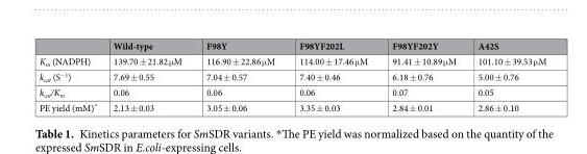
<table><thead><tr><td></td><td>Wild-type</td><td>F98Y</td><td>F98YF202L</td><td>F98YF202Y</td><td>A42S</td></tr></thead><tbody><tr><td>K<sub>m</sub> (NADPH)</td><td>139.70 ± 21.82 μM</td><td>116.90 ± 22.86 μM</td><td>114.00 ± 17.46 μM</td><td>91.41 ± 10.89 μM</td><td>101.10 ± 39.53 μM</td></tr><tr><td>k<sub>cat</sub> (S<sup>−1</sup>)</td><td>7.69 ± 0.55</td><td>7.04 ± 0.57</td><td>7.40 ± 0.46</td><td>6.18 ± 0.76</td><td>5.00 ± 0.76</td></tr><tr><td>k<sub>cat</sub>/K<sub>m</sub></td><td>0.06</td><td>0.06</td><td>0.06</td><td>0.07</td><td>0.05</td></tr><tr><td>PE yield (mM)*</td><td>2.13 ± 0.03</td><td>3.05 ± 0.06</td><td>3.35 ± 0.03</td><td>2.84 ± 0.01</td><td>2.86 ± 0.10</td></tr></tbody></table>